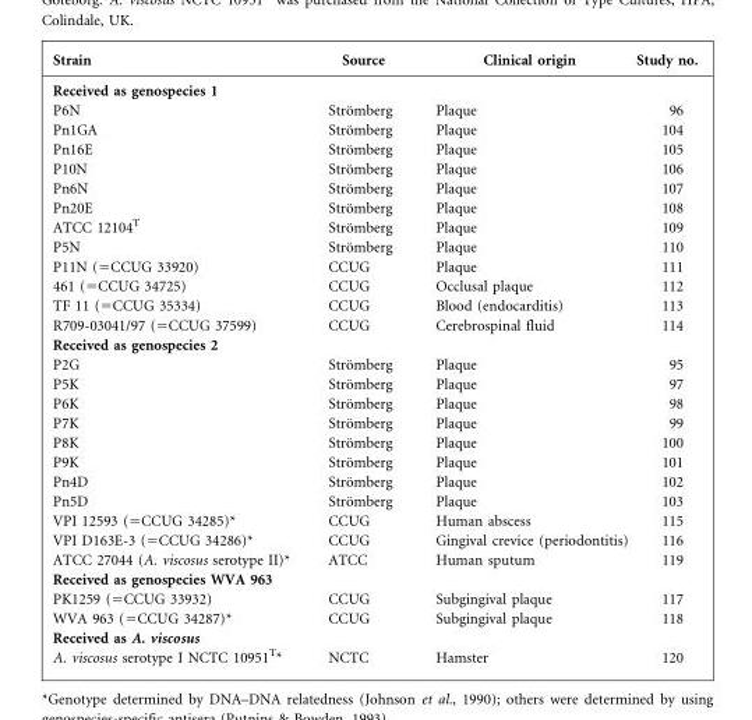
<table><thead><tr><td>Strain</td><td>Source</td><td>Clinical origin</td><td>Study no.</td></tr></thead><tbody><tr><td colspan="4">Received as genospecies 1</td></tr><tr><td>P6N</td><td>Stro¨mberg</td><td>Plaque</td><td>96</td></tr><tr><td>Pn1GA</td><td>Stro¨mberg</td><td>Plaque</td><td>104</td></tr><tr><td>Pn16E</td><td>Stro¨mberg</td><td>Plaque</td><td>105</td></tr><tr><td>P10N</td><td>Stro¨mberg</td><td>Plaque</td><td>106</td></tr><tr><td>Pn6N</td><td>Stro¨mberg</td><td>Plaque</td><td>107</td></tr><tr><td>Pn20E</td><td>Stro¨mberg</td><td>Plaque</td><td>108</td></tr><tr><td>ATCC 12104<sup>T</sup></td><td>Stro¨mberg</td><td>Plaque</td><td>109</td></tr><tr><td>P5N</td><td>Stro¨mberg</td><td>Plaque</td><td>110</td></tr><tr><td>P11N (=CCUG 33920)</td><td>CCUG</td><td>Plaque</td><td>111</td></tr><tr><td>461 (=CCUG 34725)</td><td>CCUG</td><td>Occlusal plaque</td><td>112</td></tr><tr><td>TF 11 (=CCUG 35334)</td><td>CCUG</td><td>Blood (endocarditis)</td><td>113</td></tr><tr><td>R709-03041/97 (=CCUG 37599)</td><td>CCUG</td><td>Cerebrospinal fluid</td><td>114</td></tr><tr><td colspan="4">Received as genospecies 2</td></tr><tr><td>P2G</td><td>Stro¨mberg</td><td>Plaque</td><td>95</td></tr><tr><td>P5K</td><td>Stro¨mberg</td><td>Plaque</td><td>97</td></tr><tr><td>P6K</td><td>Stro¨mberg</td><td>Plaque</td><td>98</td></tr><tr><td>P7K</td><td>Stro¨mberg</td><td>Plaque</td><td>99</td></tr><tr><td>P8K</td><td>Stro¨mberg</td><td>Plaque</td><td>100</td></tr><tr><td>P9K</td><td>Stro¨mberg</td><td>Plaque</td><td>101</td></tr><tr><td>Pn4D</td><td>Stro¨mberg</td><td>Plaque</td><td>102</td></tr><tr><td>Pn5D</td><td>Stro¨mberg</td><td>Plaque</td><td>103</td></tr><tr><td>VPI 12593 (=CCUG 34285)*</td><td>CCUG</td><td>Human abscess</td><td>115</td></tr><tr><td>VPI D163E-3 (=CCUG 34286)*</td><td>CCUG</td><td>Gingival crevice (periodontitis)</td><td>116</td></tr><tr><td>ATCC 27044 (A. viscosus serotype II)*</td><td>ATCC</td><td>Human sputum</td><td>119</td></tr><tr><td colspan="4">Received as genospecies WVA 963</td></tr><tr><td>PK1259 (=CCUG 33932)</td><td>CCUG</td><td>Subgingival plaque</td><td>117</td></tr><tr><td>WVA 963 (=CCUG 34287)*</td><td>CCUG</td><td>Subgingival plaque</td><td>118</td></tr><tr><td colspan="4">Received as A. viscosus</td></tr><tr><td>A. viscosus serotype I NCTC 10951<sup>T</sup>*</td><td>NCTC</td><td>Hamster</td><td>120</td></tr></tbody></table>